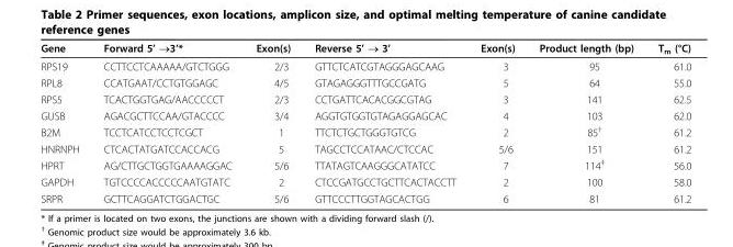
<table><thead><tr><td>Gene</td><td>Forward 5’ →3’*</td><td>Exon(s)</td><td>Reverse 5’ → 3’</td><td>Exon(s)</td><td>Product length (bp)</td><td>T<sub>m</sub> (°C)</td></tr></thead><tbody><tr><td>RPS19</td><td>CCTTCCTCAAAAA/GTCTGGG</td><td>2/3</td><td>GTTCTCATCGTAGGGAGCAAG</td><td>3</td><td>95</td><td>61.0</td></tr><tr><td>RPL8</td><td>CCATGAAT/CCTGTGGAGC</td><td>4/5</td><td>GTAGAGGGTTTGCCGATG</td><td>5</td><td>64</td><td>55.0</td></tr><tr><td>RPS5</td><td>TCACTGGTGAG/AACCCCCT</td><td>2/3</td><td>CCTGATTCACACGGCGTAG</td><td>3</td><td>141</td><td>62.5</td></tr><tr><td>GUSB</td><td>AGACGCTTCCAA/GTACCCC</td><td>3/4</td><td>AGGTGTGGTGTAGAGGAGCAC</td><td>4</td><td>103</td><td>62.0</td></tr><tr><td>B2M</td><td>TCCTCATCCTCCTCGCT</td><td>1</td><td>TTCTCTGCTGGGTGTCG</td><td>2</td><td>85<sup>†</sup></td><td>61.2</td></tr><tr><td>HNRNPH</td><td>CTCACTATGATCCACCACG</td><td>5</td><td>TAGCCTCCATAAC/CTCCAC</td><td>5/6</td><td>151</td><td>61.2</td></tr><tr><td>HPRT</td><td>AG/CTTGCTGGTGAAAAGGAC</td><td>5/6</td><td>TTATAGTCAAGGGCATATCC</td><td>7</td><td>114<sup>‡</sup></td><td>56.0</td></tr><tr><td>GAPDH</td><td>TGTCCCCACCCCCAATGTATC</td><td>2</td><td>CTCCGATGCCTGCTTCACTACCTT</td><td>2</td><td>100</td><td>58.0</td></tr><tr><td>SRPR</td><td>GCTTCAGGATCTGGACTGC</td><td>5/6</td><td>GTTCCCTTGGTAGCACTGG</td><td>6</td><td>81</td><td>61.2</td></tr></tbody></table>